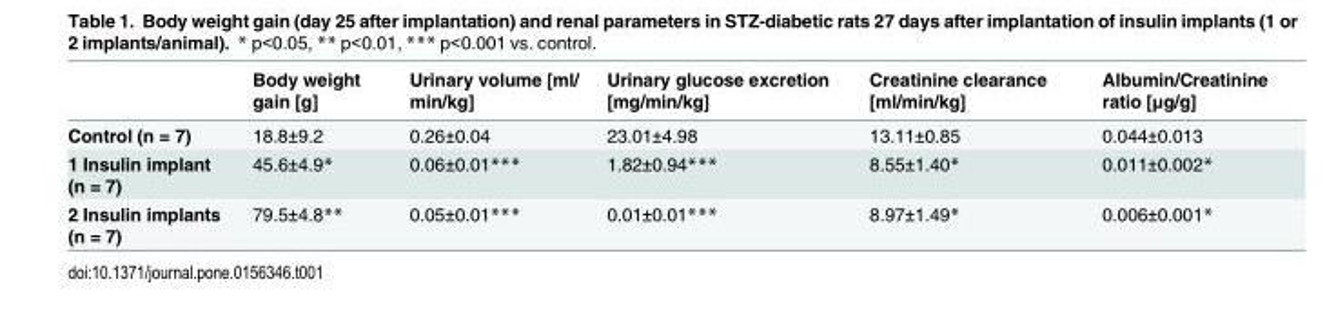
<table><thead><tr><td></td><td>Body weight gain [g]</td><td>Urinary volume [ml/ min/kg]</td><td>Urinary glucose excretion [mg/min/kg]</td><td>Creatinine clearance [ml/min/kg]</td><td>Albumin/Creatinine ratio [μg/g]</td></tr></thead><tbody><tr><td>Control (n = 7)</td><td>18.8±9.2</td><td>0.26±0.04</td><td>23.01±4.98</td><td>13.11±0.85</td><td>0.044±0.013</td></tr><tr><td>1 Insulin implant (n = 7)</td><td>45.6±4.9*</td><td>0.06±0.01***</td><td>1.82±0.94***</td><td>8.55±1.40*</td><td>0.011±0.002*</td></tr><tr><td>2 Insulin implants (n = 7)</td><td>79.5±4.8**</td><td>0.05±0.01***</td><td>0.01±0.01***</td><td>8.97±1.49*</td><td>0.006±0.001*</td></tr></tbody></table>